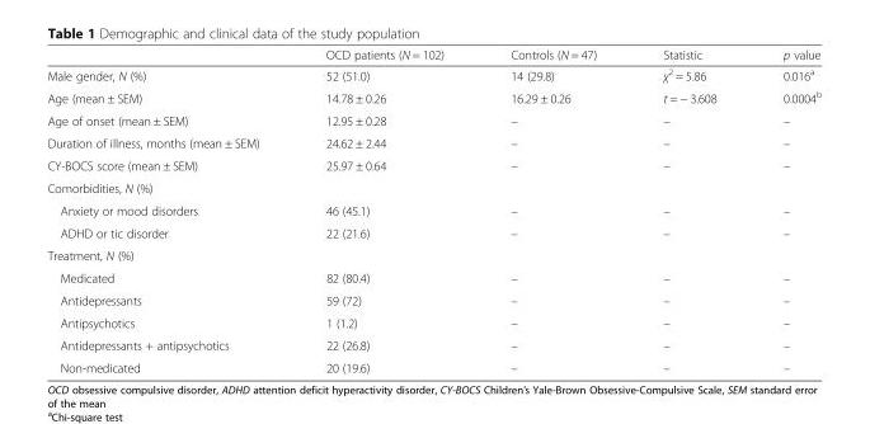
<table><thead><tr><td></td><td>OCD patients (N = 102)</td><td>Controls (N = 47)</td><td>Statistic</td><td>p value</td></tr></thead><tbody><tr><td>Male gender, N (%)</td><td>52 (51.0)</td><td>14 (29.8)</td><td>χ<sup>2</sup> = 5.86</td><td>0.016<sup>a</sup></td></tr><tr><td>Age (mean ± SEM)</td><td>14.78 ± 0.26</td><td>16.29 ± 0.26</td><td>t = − 3.608</td><td>0.0004<sup>b</sup></td></tr><tr><td>Age of onset (mean ± SEM)</td><td>12.95 ± 0.28</td><td>–</td><td>–</td><td>–</td></tr><tr><td>Duration of illness, months (mean ± SEM)</td><td>24.62 ± 2.44</td><td>–</td><td>–</td><td>–</td></tr><tr><td>CY-BOCS score (mean ± SEM)</td><td>25.97 ± 0.64</td><td>–</td><td>–</td><td>–</td></tr><tr><td colspan="5">Comorbidities, N (%)</td></tr><tr><td>Anxiety or mood disorders</td><td>46 (45.1)</td><td>–</td><td>–</td><td>–</td></tr><tr><td>ADHD or tic disorder</td><td>22 (21.6)</td><td>–</td><td>–</td><td>–</td></tr><tr><td colspan="5">Treatment, N (%)</td></tr><tr><td>Medicated</td><td>82 (80.4)</td><td>–</td><td>–</td><td>–</td></tr><tr><td>Antidepressants</td><td>59 (72)</td><td>–</td><td>–</td><td>–</td></tr><tr><td>Antipsychotics</td><td>1 (1.2)</td><td>–</td><td>–</td><td>–</td></tr><tr><td>Antidepressants + antipsychotics</td><td>22 (26.8)</td><td>–</td><td>–</td><td>–</td></tr><tr><td>Non-medicated</td><td>20 (19.6)</td><td>–</td><td>–</td><td>–</td></tr></tbody></table>